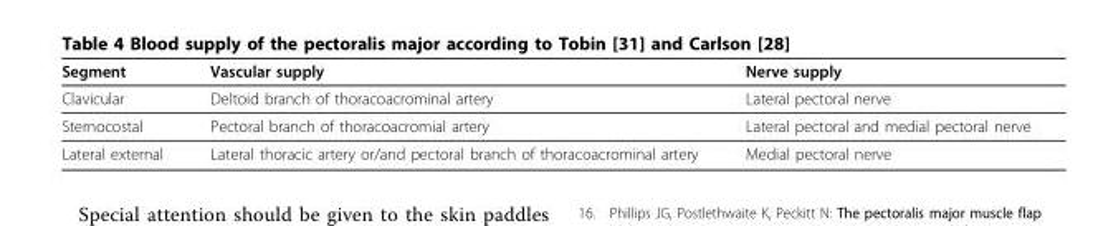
<table><thead><tr><td>Segment</td><td>Vascular supply</td><td>Nerve supply</td></tr></thead><tbody><tr><td>Clavicular</td><td>Deltoid branch of thoracoacrominal artery</td><td>Lateral pectoral nerve</td></tr><tr><td>Sternocostal</td><td>Pectoral branch of thoracoacromial artery</td><td>Lateral pectoral and medial pectoral nerve</td></tr><tr><td>Lateral external</td><td>Lateral thoracic artery or/and pectoral branch of thoracoacrominal artery</td><td>Medial pectoral nerve</td></tr></tbody></table>